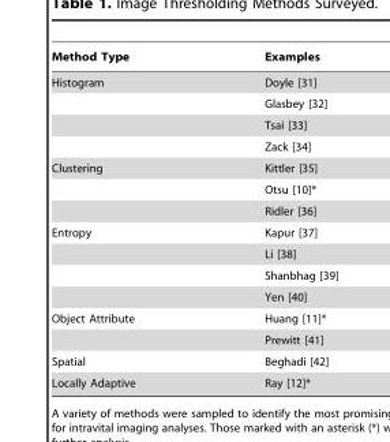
<table><thead><tr><td>Method Type</td><td>Examples</td></tr></thead><tbody><tr><td rowspan="4">Histogram</td><td>Doyle [31]</td></tr><tr><td>Glasbey [32]</td></tr><tr><td>Tsai [33]</td></tr><tr><td>Zack [34]</td></tr><tr><td rowspan="3">Clustering</td><td>Kittler [35]</td></tr><tr><td>Otsu [10]*</td></tr><tr><td>Ridler [36]</td></tr><tr><td rowspan="4">Entropy</td><td>Kapur [37]</td></tr><tr><td>Li [38]</td></tr><tr><td>Shanbhag [39]</td></tr><tr><td>Yen [40]</td></tr><tr><td rowspan="2">Object Attribute</td><td>Huang [11]*</td></tr><tr><td>Prewitt [41]</td></tr><tr><td>Spatial</td><td>Beghadi [42]</td></tr><tr><td>Locally Adaptive</td><td>Ray [12]*</td></tr></tbody></table>